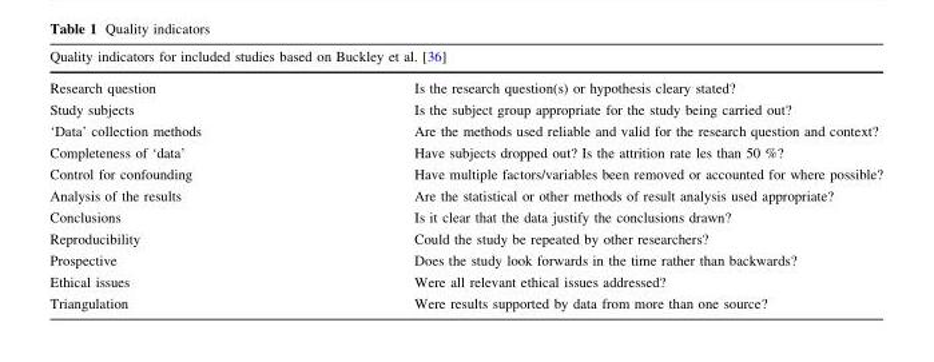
<table><thead><tr><td colspan="2">Quality indicators for included studies based on Buckley et al. [36]</td></tr><tr><td>Research question</td><td>Is the research question(s) or hypothesis cleary stated?</td></tr></thead><tbody><tr><td>Study subjects</td><td>Is the subject group appropriate for the study being carried out?</td></tr><tr><td>‘Data’ collection methods</td><td>Are the methods used reliable and valid for the research question and context?</td></tr><tr><td>Completeness of ‘data’</td><td>Have subjects dropped out? Is the attrition rate les than 50 %?</td></tr><tr><td>Control for confounding</td><td>Have multiple factors/variables been removed or accounted for where possible?</td></tr><tr><td>Analysis of the results</td><td>Are the statistical or other methods of result analysis used appropriate?</td></tr><tr><td>Conclusions</td><td>Is it clear that the data justify the conclusions drawn?</td></tr><tr><td>Reproducibility</td><td>Could the study be repeated by other researchers?</td></tr><tr><td>Prospective</td><td>Does the study look forwards in the time rather than backwards?</td></tr><tr><td>Ethical issues</td><td>Were all relevant ethical issues addressed?</td></tr><tr><td>Triangulation</td><td>Were results supported by data from more than one source?</td></tr></tbody></table>